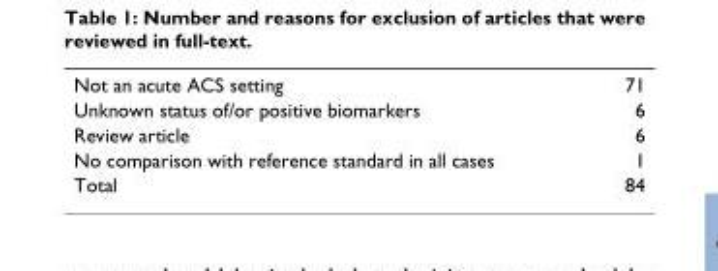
<table><tbody><tr><td>Not an acute ACS setting</td><td>71</td></tr><tr><td>Unknown status of/or positive biomarkers</td><td>6</td></tr><tr><td>Review article</td><td>6</td></tr><tr><td>No comparison with reference standard in all cases</td><td>1</td></tr><tr><td>Total</td><td>84</td></tr></tbody></table>